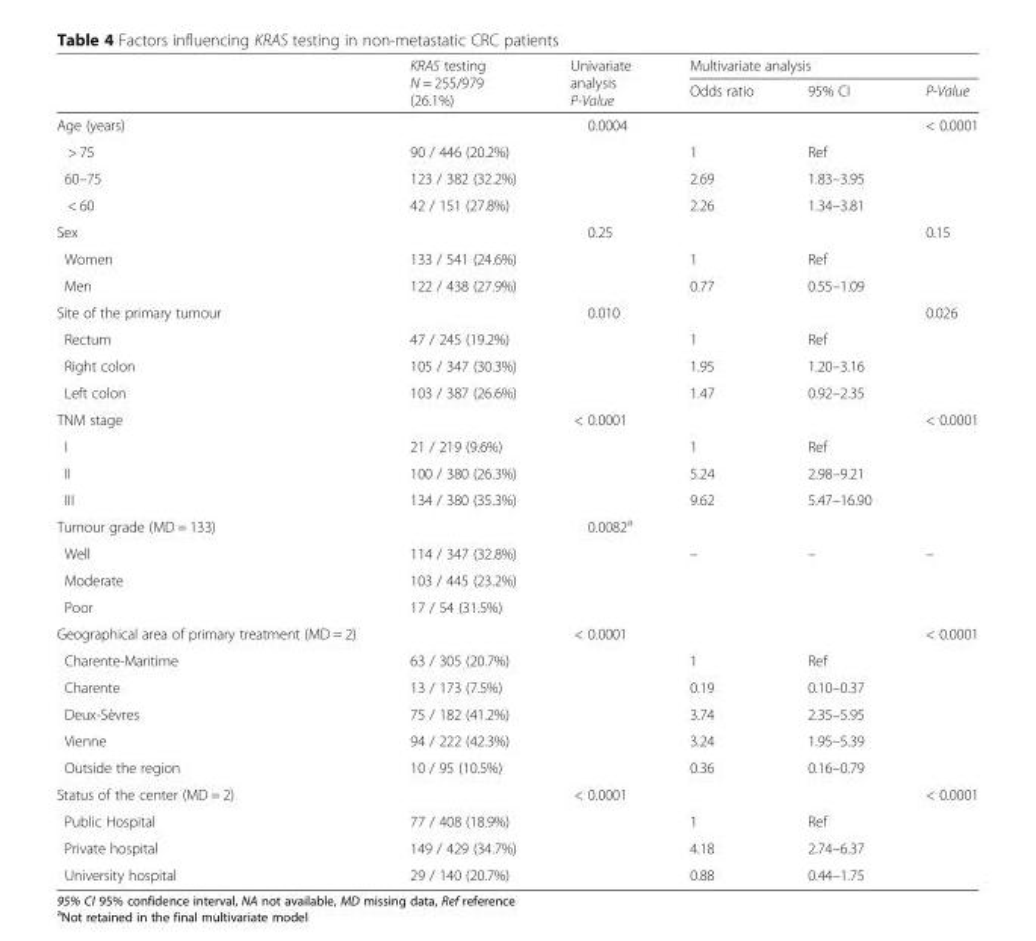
<table><thead><tr><td rowspan="2"></td><td rowspan="2">KRAS testing N = 255/979 (26.1%)</td><td rowspan="2">Univariate analysis P-Value</td><td colspan="3">Multivariate analysis</td></tr><tr><td>Odds ratio</td><td>95% CI</td><td>P-Value</td></tr></thead><tbody><tr><td>Age (years)</td><td></td><td>0.0004</td><td></td><td></td><td>&lt; 0.0001</td></tr><tr><td>&gt; 75</td><td>90 / 446 (20.2%)</td><td></td><td>1</td><td>Ref</td><td></td></tr><tr><td>60–75</td><td>123 / 382 (32.2%)</td><td></td><td>2.69</td><td>1.83–3.95</td><td></td></tr><tr><td>&lt; 60</td><td>42 / 151 (27.8%)</td><td></td><td>2.26</td><td>1.34–3.81</td><td></td></tr><tr><td>Sex</td><td></td><td>0.25</td><td></td><td></td><td>0.15</td></tr><tr><td>Women</td><td>133 / 541 (24.6%)</td><td></td><td>1</td><td>Ref</td><td></td></tr><tr><td>Men</td><td>122 / 438 (27.9%)</td><td></td><td>0.77</td><td>0.55–1.09</td><td></td></tr><tr><td>Site of the primary tumour</td><td></td><td>0.010</td><td></td><td></td><td>0.026</td></tr><tr><td>Rectum</td><td>47 / 245 (19.2%)</td><td></td><td>1</td><td>Ref</td><td></td></tr><tr><td>Right colon</td><td>105 / 347 (30.3%)</td><td></td><td>1.95</td><td>1.20–3.16</td><td></td></tr><tr><td>Left colon</td><td>103 / 387 (26.6%)</td><td></td><td>1.47</td><td>0.92–2.35</td><td></td></tr><tr><td>TNM stage</td><td></td><td>&lt; 0.0001</td><td></td><td></td><td>&lt; 0.0001</td></tr><tr><td>I</td><td>21 / 219 (9.6%)</td><td></td><td>1</td><td>Ref</td><td></td></tr><tr><td>II</td><td>100 / 380 (26.3%)</td><td></td><td>5.24</td><td>2.98–9.21</td><td></td></tr><tr><td>III</td><td>134 / 380 (35.3%)</td><td></td><td>9.62</td><td>5.47–16.90</td><td></td></tr><tr><td>Tumour grade (MD = 133)</td><td></td><td>0.0082<sup>a</sup></td><td></td><td></td><td></td></tr><tr><td>Well</td><td>114 / 347 (32.8%)</td><td></td><td>–</td><td>–</td><td>–</td></tr><tr><td>Moderate</td><td>103 / 445 (23.2%)</td><td></td><td></td><td></td><td></td></tr><tr><td>Poor</td><td>17 / 54 (31.5%)</td><td></td><td></td><td></td><td></td></tr><tr><td>Geographical area of primary treatment (MD = 2)</td><td></td><td>&lt; 0.0001</td><td></td><td></td><td>&lt; 0.0001</td></tr><tr><td>Charente-Maritime</td><td>63 / 305 (20.7%)</td><td></td><td>1</td><td>Ref</td><td></td></tr><tr><td>Charente</td><td>13 / 173 (7.5%)</td><td></td><td>0.19</td><td>0.10–0.37</td><td></td></tr><tr><td>Deux-Sèvres</td><td>75 / 182 (41.2%)</td><td></td><td>3.74</td><td>2.35–5.95</td><td></td></tr><tr><td>Vienne</td><td>94 / 222 (42.3%)</td><td></td><td>3.24</td><td>1.95–5.39</td><td></td></tr><tr><td>Outside the region</td><td>10 / 95 (10.5%)</td><td></td><td>0.36</td><td>0.16–0.79</td><td></td></tr><tr><td>Status of the center (MD = 2)</td><td></td><td>&lt; 0.0001</td><td></td><td></td><td>&lt; 0.0001</td></tr><tr><td>Public Hospital</td><td>77 / 408 (18.9%)</td><td></td><td>1</td><td>Ref</td><td></td></tr><tr><td>Private hospital</td><td>149 / 429 (34.7%)</td><td></td><td>4.18</td><td>2.74–6.37</td><td></td></tr><tr><td>University hospital</td><td>29 / 140 (20.7%)</td><td></td><td>0.88</td><td>0.44–1.75</td><td></td></tr></tbody></table>